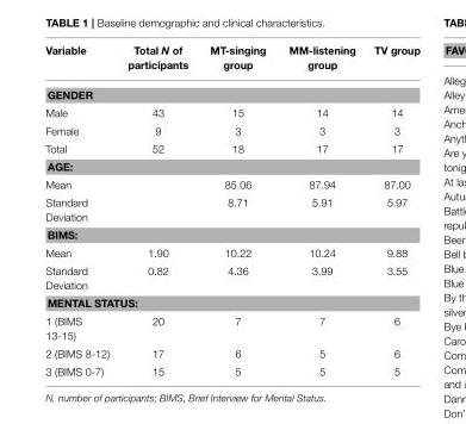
<table><thead><tr><td>Variable</td><td>Total N of participants</td><td>MT-singing group</td><td>MM-listening group</td><td>TV group</td></tr></thead><tbody><tr><td colspan="5">GENDER</td></tr><tr><td>Male</td><td>43</td><td>15</td><td>14</td><td>14</td></tr><tr><td>Female</td><td>9</td><td>3</td><td>3</td><td>3</td></tr><tr><td>Total</td><td>52</td><td>18</td><td>17</td><td>17</td></tr><tr><td colspan="5">AGE:</td></tr><tr><td>Mean</td><td></td><td>85.06</td><td>87.94</td><td>87.00</td></tr><tr><td>Standard Deviation</td><td></td><td>8.71</td><td>5.91</td><td>5.97</td></tr><tr><td colspan="5">BIMS:</td></tr><tr><td>Mean</td><td>1.90</td><td>10.22</td><td>10.24</td><td>9.88</td></tr><tr><td>Standard Deviation</td><td>0.82</td><td>4.36</td><td>3.99</td><td>3.55</td></tr><tr><td colspan="5">MENTAL STATUS:</td></tr><tr><td>1 (BIMS 13-15)</td><td>20</td><td>7</td><td>7</td><td>6</td></tr><tr><td>2 (BIMS 8-12)</td><td>17</td><td>6</td><td>5</td><td>6</td></tr><tr><td>3 (BIMS 0-7)</td><td>15</td><td>5</td><td>5</td><td>5</td></tr></tbody></table>